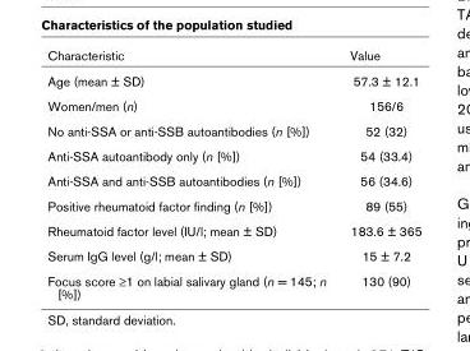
<table><thead><tr><td>Characteristic</td><td>Value</td></tr></thead><tbody><tr><td>Age (mean ± SD)</td><td>57.3 ± 12.1</td></tr><tr><td>Women/men (n)</td><td>156/6</td></tr><tr><td>No anti-SSA or anti-SSB autoantibodies (n [%])</td><td>52 (32)</td></tr><tr><td>Anti-SSA autoantibody only (n [%])</td><td>54 (33.4)</td></tr><tr><td>Anti-SSA and anti-SSB autoantibodies (n [%])</td><td>56 (34.6)</td></tr><tr><td>Positive rheumatoid factor finding (n [%])</td><td>89 (55)</td></tr><tr><td>Rheumatoid factor level (IU/l; mean ± SD)</td><td>183.6 ± 365</td></tr><tr><td>Serum IgG level (g/l; mean ± SD)</td><td>15 ± 7.2</td></tr><tr><td>Focus score ≥1 on labial salivary gland (n = 145; n [%])</td><td>130 (90)</td></tr></tbody></table>